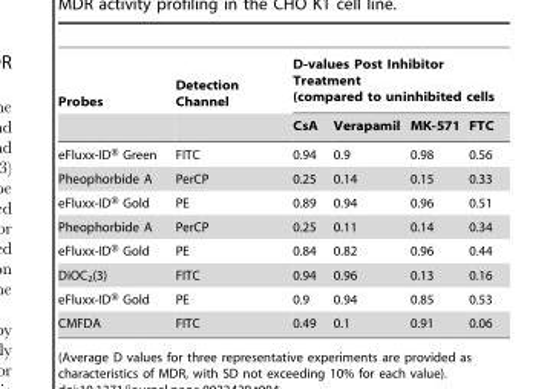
<table><thead><tr><td rowspan="2">Probes</td><td rowspan="2">Detection Channel</td><td colspan="4">D-values Post Inhibitor Treatment (compared to uninhibited cells</td></tr><tr><td>CsA</td><td>Verapamil</td><td>MK-571</td><td>FTC</td></tr></thead><tbody><tr><td>eFluxx-ID® Green</td><td>FITC</td><td>0.94</td><td>0.9</td><td>0.98</td><td>0.56</td></tr><tr><td>Pheophorbide A</td><td>PerCP</td><td>0.25</td><td>0.14</td><td>0.15</td><td>0.33</td></tr><tr><td>eFluxx-ID® Gold</td><td>PE</td><td>0.89</td><td>0.94</td><td>0.96</td><td>0.51</td></tr><tr><td>Pheophorbide A</td><td>PerCP</td><td>0.25</td><td>0.11</td><td>0.14</td><td>0.34</td></tr><tr><td>eFluxx-ID® Gold</td><td>PE</td><td>0.84</td><td>0.82</td><td>0.96</td><td>0.44</td></tr><tr><td>DiOC<sub>2</sub>(3)</td><td>FITC</td><td>0.94</td><td>0.96</td><td>0.13</td><td>0.16</td></tr><tr><td>eFluxx-ID® Gold</td><td>PE</td><td>0.9</td><td>0.94</td><td>0.85</td><td>0.53</td></tr><tr><td>CMFDA</td><td>FITC</td><td>0.49</td><td>0.1</td><td>0.91</td><td>0.06</td></tr></tbody></table>